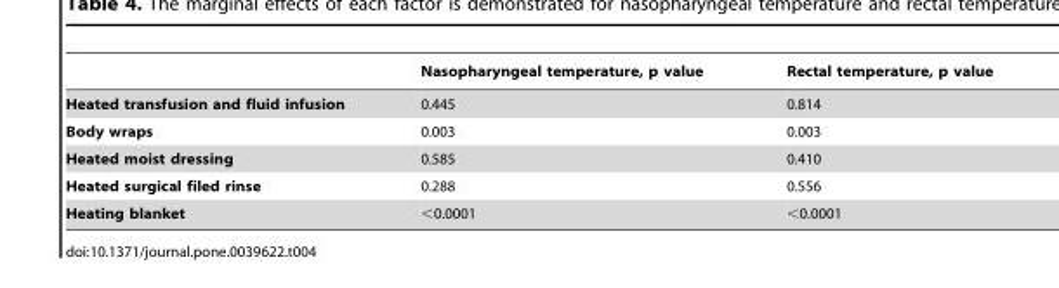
<table><thead><tr><td></td><td>Nasopharyngeal temperature, p value</td><td>Rectal temperature, p value</td></tr></thead><tbody><tr><td>Heated transfusion and fluid infusion</td><td>0.445</td><td>0.814</td></tr><tr><td>Body wraps</td><td>0.003</td><td>0.003</td></tr><tr><td>Heated moist dressing</td><td>0.585</td><td>0.410</td></tr><tr><td>Heated surgical filed rinse</td><td>0.288</td><td>0.556</td></tr><tr><td>Heating blanket</td><td>&lt;0.0001</td><td>&lt;0.0001</td></tr></tbody></table>